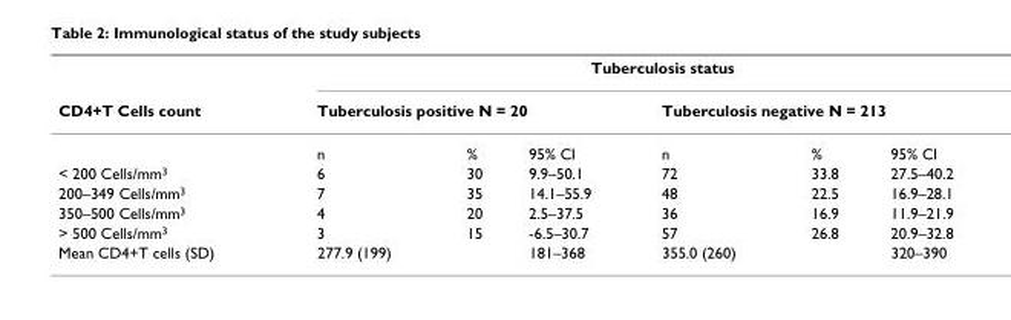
<table><thead><tr><td rowspan="3">CD4+T Cells count</td><td colspan="6">Tuberculosis status</td></tr><tr><td colspan="3">Tuberculosis positive N = 20</td><td colspan="3">Tuberculosis negative N = 213</td></tr><tr><td>n</td><td>%</td><td>95% CI</td><td>n</td><td>%</td><td>95% CI</td></tr></thead><tbody><tr><td>&lt; 200 Cells/mm<sup>3</sup></td><td>6</td><td>30</td><td>9.9–50.1</td><td>72</td><td>33.8</td><td>27.5–40.2</td></tr><tr><td>200–349 Cells/mm<sup>3</sup></td><td>7</td><td>35</td><td>14.1–55.9</td><td>48</td><td>22.5</td><td>16.9–28.1</td></tr><tr><td>350–500 Cells/mm<sup>3</sup></td><td>4</td><td>20</td><td>2.5–37.5</td><td>36</td><td>16.9</td><td>11.9–21.9</td></tr><tr><td>&gt; 500 Cells/mm<sup>3</sup></td><td>3</td><td>15</td><td>-6.5–30.7</td><td>57</td><td>26.8</td><td>20.9–32.8</td></tr><tr><td>Mean CD4+T cells (SD)</td><td>277.9 (199)</td><td></td><td>181–368</td><td>355.0 (260)</td><td></td><td>320–390</td></tr></tbody></table>